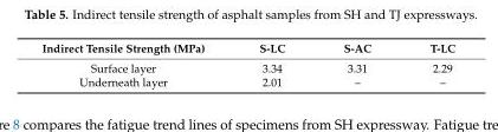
<table><thead><tr><td>Indirect Tensile Strength (MPa)</td><td>S-LC</td><td>S-AC</td><td>T-LC</td></tr></thead><tbody><tr><td>Surface layer</td><td>3.34</td><td>3.31</td><td>2.29</td></tr><tr><td>Underneath layer</td><td>2.01</td><td>–</td><td>–</td></tr></tbody></table>